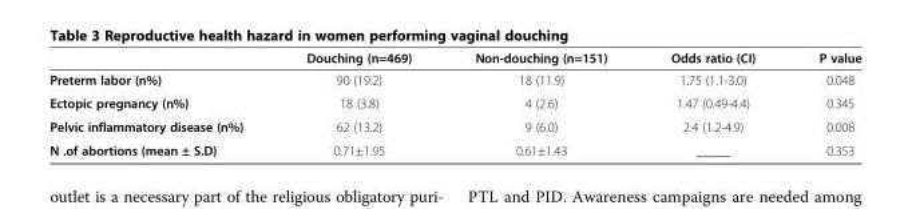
<table><thead><tr><td></td><td>Douching (n=469)</td><td>Non-douching (n=151)</td><td>Odds ratio (CI)</td><td>P value</td></tr></thead><tbody><tr><td>Preterm labor (n%)</td><td>90 (19.2)</td><td>18 (11.9)</td><td>1.75 (1.1-3.0)</td><td>0.048</td></tr><tr><td>Ectopic pregnancy (n%)</td><td>18 (3.8)</td><td>4 (2.6)</td><td>1.47 (0.49-4.4)</td><td>0.345</td></tr><tr><td>Pelvic inflammatory disease (n%)</td><td>62 (13.2)</td><td>9 (6.0)</td><td>2.4 (1.2-4.9)</td><td>0.008</td></tr><tr><td>N .of abortions (mean ± S.D)</td><td>0.71±1.95</td><td>0.61±1.43</td><td>_____</td><td>0.353</td></tr></tbody></table>